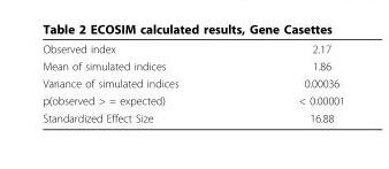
<table><tbody><tr><td>Observed index</td><td>2.17</td></tr><tr><td>Mean of simulated indices</td><td>1.86</td></tr><tr><td>Variance of simulated indices</td><td>0.00036</td></tr><tr><td>p(observed &gt; = expected)</td><td>&lt; 0.00001</td></tr><tr><td>Standardized Effect Size</td><td>16.88</td></tr></tbody></table>